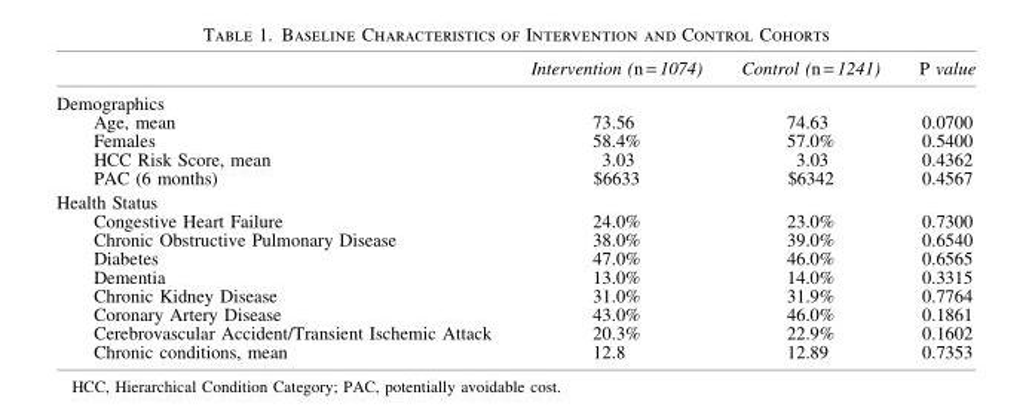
<table><thead><tr><td></td><td>Intervention (n = 1074)</td><td>Control (n = 1241)</td><td>P value</td></tr></thead><tbody><tr><td colspan="4">Demographics</td></tr><tr><td>Age, mean</td><td>73.56</td><td>74.63</td><td>0.0700</td></tr><tr><td>Females</td><td>58.4%</td><td>57.0%</td><td>0.5400</td></tr><tr><td>HCC Risk Score, mean</td><td>3.03</td><td>3.03</td><td>0.4362</td></tr><tr><td>PAC (6 months)</td><td>$6633</td><td>$6342</td><td>0.4567</td></tr><tr><td colspan="4">Health Status</td></tr><tr><td>Congestive Heart Failure</td><td>24.0%</td><td>23.0%</td><td>0.7300</td></tr><tr><td>Chronic Obstructive Pulmonary Disease</td><td>38.0%</td><td>39.0%</td><td>0.6540</td></tr><tr><td>Diabetes</td><td>47.0%</td><td>46.0%</td><td>0.6565</td></tr><tr><td>Dementia</td><td>13.0%</td><td>14.0%</td><td>0.3315</td></tr><tr><td>Chronic Kidney Disease</td><td>31.0%</td><td>31.9%</td><td>0.7764</td></tr><tr><td>Coronary Artery Disease</td><td>43.0%</td><td>46.0%</td><td>0.1861</td></tr><tr><td>Cerebrovascular Accident/Transient Ischemic Attack</td><td>20.3%</td><td>22.9%</td><td>0.1602</td></tr><tr><td>Chronic conditions, mean</td><td>12.8</td><td>12.89</td><td>0.7353</td></tr></tbody></table>